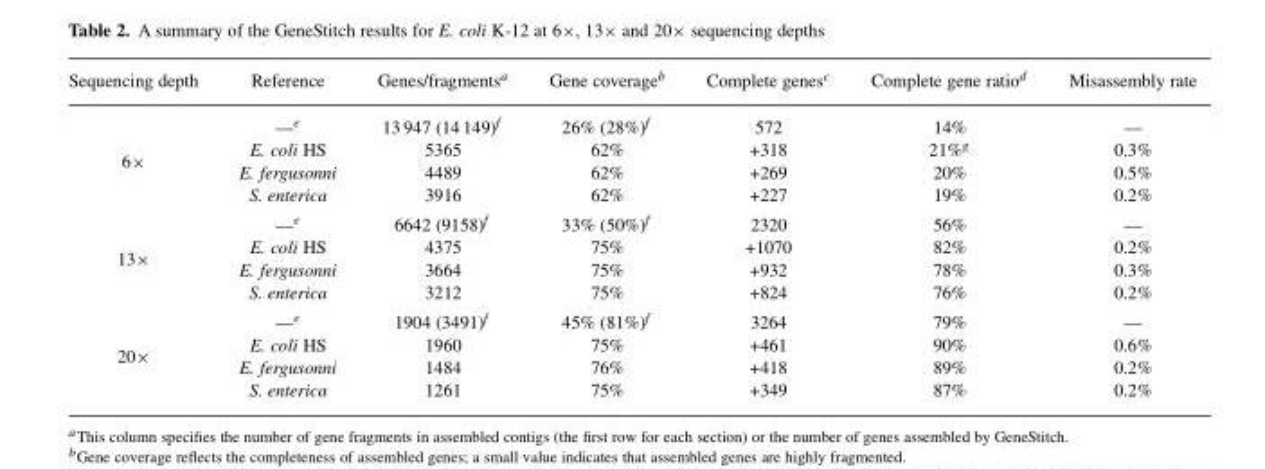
<table><thead><tr><td>Sequencing depth</td><td>Reference</td><td>Genes/fragments<sup>a</sup></td><td>Gene coverage<sup>b</sup></td><td>Complete genes<sup>c</sup></td><td>Complete gene ratio<sup>d</sup></td><td>Misassembly rate</td></tr></thead><tbody><tr><td rowspan="4">6×</td><td>—<sup>e</sup></td><td>13 947 (14 149)<sup>f</sup></td><td>26% (28%)<sup>f</sup></td><td>572</td><td>14%</td><td>—</td></tr><tr><td>E. coli HS</td><td>5365</td><td>62%</td><td>+318</td><td>21%<sup>g</sup></td><td>0.3%</td></tr><tr><td>E. fergusonni</td><td>4489</td><td>62%</td><td>+269</td><td>20%</td><td>0.5%</td></tr><tr><td>S. enterica</td><td>3916</td><td>62%</td><td>+227</td><td>19%</td><td>0.2%</td></tr><tr><td rowspan="4">13×</td><td>—<sup>e</sup></td><td>6642 (9158)<sup>f</sup></td><td>33% (50%)<sup>f</sup></td><td>2320</td><td>56%</td><td>—</td></tr><tr><td>E. coli HS</td><td>4375</td><td>75%</td><td>+1070</td><td>82%</td><td>0.2%</td></tr><tr><td>E. fergusonni</td><td>3664</td><td>75%</td><td>+932</td><td>78%</td><td>0.3%</td></tr><tr><td>S. enterica</td><td>3212</td><td>75%</td><td>+824</td><td>76%</td><td>0.2%</td></tr><tr><td rowspan="4">20×</td><td>—<sup>e</sup></td><td>1904 (3491)<sup>f</sup></td><td>45% (81%)<sup>f</sup></td><td>3264</td><td>79%</td><td>—</td></tr><tr><td>E. coli HS</td><td>1960</td><td>75%</td><td>+461</td><td>90%</td><td>0.6%</td></tr><tr><td>E. fergusonni</td><td>1484</td><td>76%</td><td>+418</td><td>89%</td><td>0.2%</td></tr><tr><td>S. enterica</td><td>1261</td><td>75%</td><td>+349</td><td>87%</td><td>0.2%</td></tr></tbody></table>